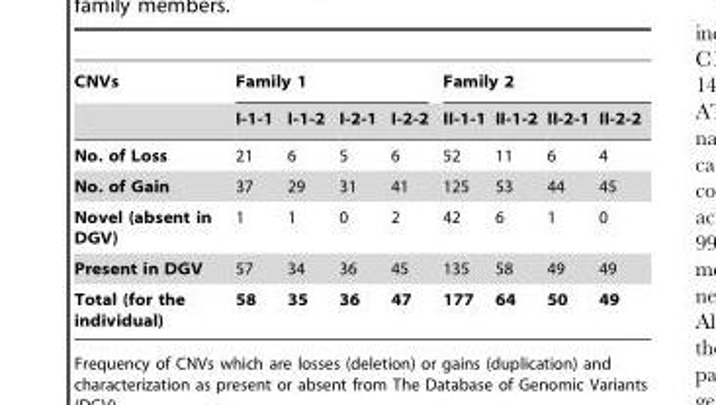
<table><thead><tr><td rowspan="2">CNVs</td><td colspan="4">Family 1</td><td colspan="4">Family 2</td></tr><tr><td>I-1-1</td><td>I-1-2</td><td>I-2-1</td><td>I-2-2</td><td>II-1-1</td><td>II-1-2</td><td>II-2-1</td><td>II-2-2</td></tr></thead><tbody><tr><td>No. of Loss</td><td>21</td><td>6</td><td>5</td><td>6</td><td>52</td><td>11</td><td>6</td><td>4</td></tr><tr><td>No. of Gain</td><td>37</td><td>29</td><td>31</td><td>41</td><td>125</td><td>53</td><td>44</td><td>45</td></tr><tr><td>Novel (absent in DGV)</td><td>1</td><td>1</td><td>0</td><td>2</td><td>42</td><td>6</td><td>1</td><td>0</td></tr><tr><td>Present in DGV</td><td>57</td><td>34</td><td>36</td><td>45</td><td>135</td><td>58</td><td>49</td><td>49</td></tr><tr><td>Total (for the individual)</td><td>58</td><td>35</td><td>36</td><td>47</td><td>177</td><td>64</td><td>50</td><td>49</td></tr></tbody></table>